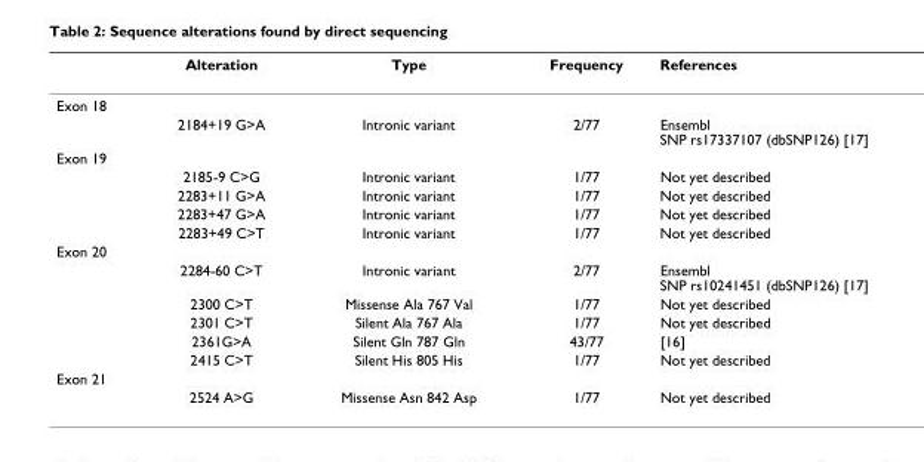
<table><thead><tr><td></td><td>Alteration</td><td>Type</td><td>Frequency</td><td>References</td></tr></thead><tbody><tr><td colspan="5">Exon 18</td></tr><tr><td></td><td>2184+19 G&gt;A</td><td>Intronic variant</td><td>2/77</td><td>Ensembl SNP rs17337107 (dbSNP126) [17]</td></tr><tr><td colspan="5">Exon 19</td></tr><tr><td></td><td>2185-9 C&gt;G</td><td>Intronic variant</td><td>1/77</td><td>Not yet described</td></tr><tr><td></td><td>2283+11 G&gt;A</td><td>Intronic variant</td><td>1/77</td><td>Not yet described</td></tr><tr><td></td><td>2283+47 G&gt;A</td><td>Intronic variant</td><td>1/77</td><td>Not yet described</td></tr><tr><td></td><td>2283+49 C&gt;T</td><td>Intronic variant</td><td>1/77</td><td>Not yet described</td></tr><tr><td colspan="5">Exon 20</td></tr><tr><td></td><td>2284-60 C&gt;T</td><td>Intronic variant</td><td>2/77</td><td>Ensembl SNP rs10241451 (dbSNP126) [17]</td></tr><tr><td></td><td>2300 C&gt;T</td><td>Missense Ala 767 Val</td><td>1/77</td><td>Not yet described</td></tr><tr><td></td><td>2301 C&gt;T</td><td>Silent Ala 767 Ala</td><td>1/77</td><td>Not yet described</td></tr><tr><td></td><td>2361G&gt;A</td><td>Silent Gln 787 Gln</td><td>43/77</td><td>[16]</td></tr><tr><td></td><td>2415 C&gt;T</td><td>Silent His 805 His</td><td>1/77</td><td>Not yet described</td></tr><tr><td colspan="5">Exon 21</td></tr><tr><td></td><td>2524 A&gt;G</td><td>Missense Asn 842 Asp</td><td>1/77</td><td>Not yet described</td></tr></tbody></table>